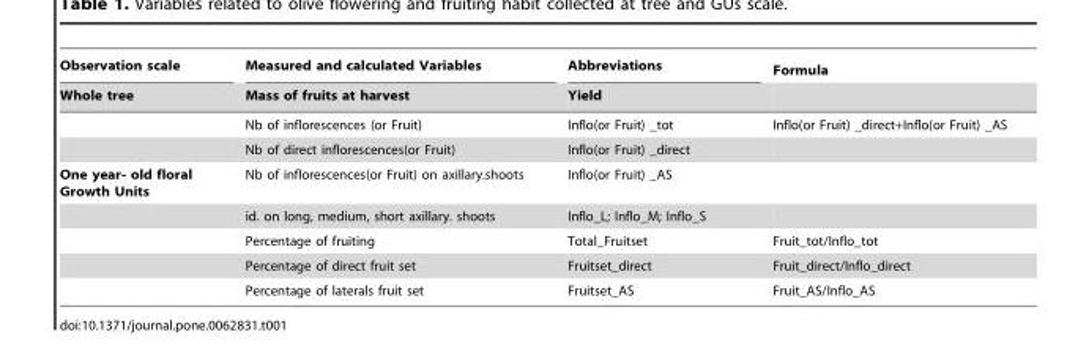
<table><thead><tr><td rowspan="2">Observation scale Whole tree</td><td rowspan="2">Measured and calculated Variables Mass of fruits at harvest</td><td rowspan="2">Abbreviations Yield</td><td rowspan="2">Formula</td></tr><tr></tr></thead><tbody><tr><td></td><td>Nb of inflorescences (or Fruit)</td><td>Inflo(or Fruit) _tot</td><td>Inflo(or Fruit) _direct+Inflo(or Fruit) _AS</td></tr><tr><td></td><td>Nb of direct inflorescences(or Fruit)</td><td>Inflo(or Fruit) _direct</td><td></td></tr><tr><td rowspan="5">One year- old floral Growth Units</td><td>Nb of inflorescences(or Fruit) on axillary.shoots</td><td>Inflo(or Fruit) _AS</td><td></td></tr><tr><td>id. on long, medium, short axillary. shoots</td><td>Inflo_L; Inflo_M; Inflo_S</td><td></td></tr><tr><td>Percentage of fruiting</td><td>Total_Fruitset</td><td>Fruit_tot/Inflo_tot</td></tr><tr><td>Percentage of direct fruit set</td><td>Fruitset_direct</td><td>Fruit_direct/Inflo_direct</td></tr><tr><td>Percentage of laterals fruit set</td><td>Fruitset_AS</td><td>Fruit_AS/Inflo_AS</td></tr></tbody></table>